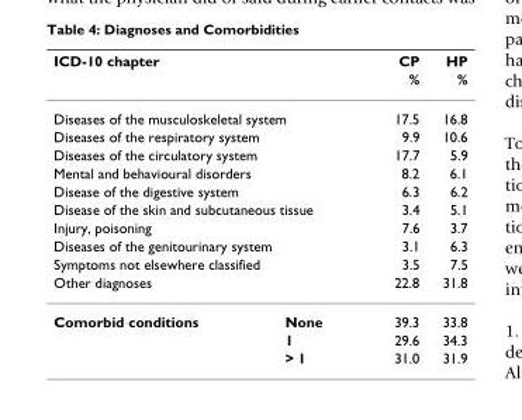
<table><thead><tr><td colspan="2">ICD-10 chapter</td><td rowspan="2">CP %</td><td rowspan="2">HP %</td></tr><tr><td></td><td></td></tr></thead><tbody><tr><td colspan="2">Diseases of the musculoskeletal system</td><td>17.5</td><td>16.8</td></tr><tr><td colspan="2">Diseases of the respiratory system</td><td>9.9</td><td>10.6</td></tr><tr><td colspan="2">Diseases of the circulatory system</td><td>17.7</td><td>5.9</td></tr><tr><td colspan="2">Mental and behavioural disorders</td><td>8.2</td><td>6.1</td></tr><tr><td colspan="2">Disease of the digestive system</td><td>6.3</td><td>6.2</td></tr><tr><td colspan="2">Disease of the skin and subcutaneous tissue</td><td>3.4</td><td>5.1</td></tr><tr><td colspan="2">Injury, poisoning</td><td>7.6</td><td>3.7</td></tr><tr><td colspan="2">Diseases of the genitourinary system</td><td>3.1</td><td>6.3</td></tr><tr><td colspan="2">Symptoms not elsewhere classified</td><td>3.5</td><td>7.5</td></tr><tr><td colspan="2">Other diagnoses</td><td>22.8</td><td>31.8</td></tr><tr><td rowspan="3">Comorbid conditions</td><td>None</td><td>39.3</td><td>33.8</td></tr><tr><td>1</td><td>29.6</td><td>34.3</td></tr><tr><td>&gt; 1</td><td>31.0</td><td>31.9</td></tr></tbody></table>